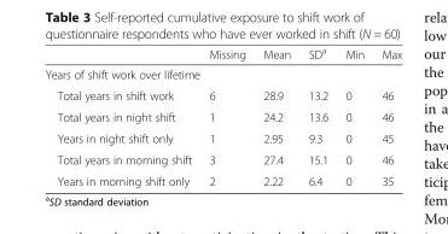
<table><thead><tr><td></td><td>Missing</td><td>Mean</td><td>SD<sup>a</sup></td><td>Min</td><td>Max</td></tr></thead><tbody><tr><td colspan="6">Years of shift work over lifetime</td></tr><tr><td>Total years in shift work</td><td>6</td><td>28.9</td><td>13.2</td><td>0</td><td>46</td></tr><tr><td>Total years in night shift</td><td>1</td><td>24.2</td><td>13.6</td><td>0</td><td>46</td></tr><tr><td>Years in night shift only</td><td>1</td><td>2.95</td><td>9.3</td><td>0</td><td>45</td></tr><tr><td>Total years in morning shift</td><td>3</td><td>27.4</td><td>15.1</td><td>0</td><td>46</td></tr><tr><td>Years in morning shift only</td><td>2</td><td>2.22</td><td>6.4</td><td>0</td><td>35</td></tr></tbody></table>